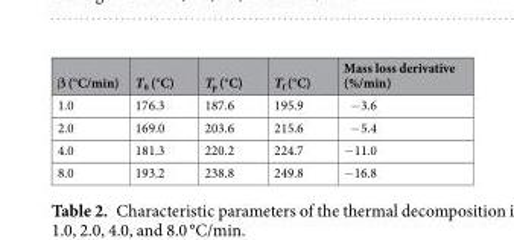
<table><thead><tr><td>β (°C/min)</td><td>T<sub>0</sub> (°C)</td><td>T<sub>p</sub> (°C)</td><td>T<sub>f</sub> (°C)</td><td>Mass loss derivative (%/min)</td></tr></thead><tbody><tr><td>1.0</td><td>176.3</td><td>187.6</td><td>195.9</td><td>−3.6</td></tr><tr><td>2.0</td><td>169.0</td><td>203.6</td><td>215.6</td><td>−5.4</td></tr><tr><td>4.0</td><td>181.3</td><td>220.2</td><td>224.7</td><td>−11.0</td></tr><tr><td>8.0</td><td>193.2</td><td>238.8</td><td>249.8</td><td>−16.8</td></tr></tbody></table>